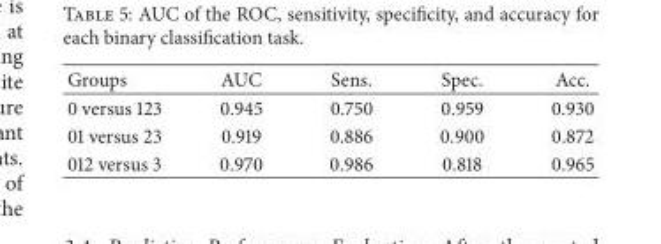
<table><thead><tr><td>Groups</td><td>AUC</td><td>Sens.</td><td>Spec.</td><td>Acc.</td></tr></thead><tbody><tr><td>0 versus 123</td><td>0.945</td><td>0.750</td><td>0.959</td><td>0.930</td></tr><tr><td>01 versus 23</td><td>0.919</td><td>0.886</td><td>0.900</td><td>0.872</td></tr><tr><td>012 versus 3</td><td>0.970</td><td>0.986</td><td>0.818</td><td>0.965</td></tr></tbody></table>